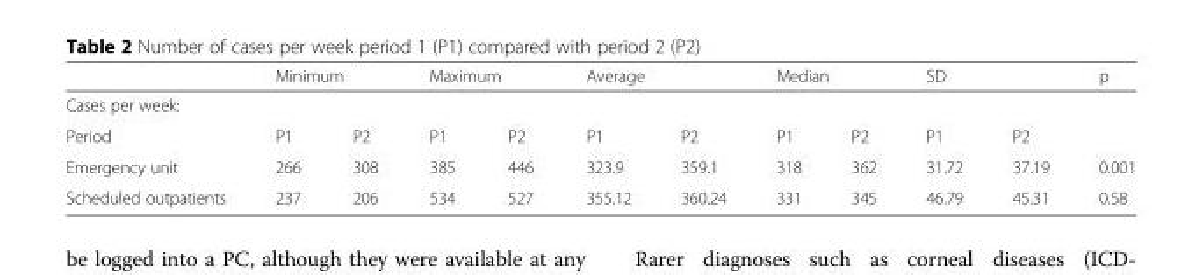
<table><thead><tr><td></td><td colspan="2">Minimum</td><td colspan="2">Maximum</td><td colspan="2">Average</td><td colspan="2">Median</td><td colspan="2">SD</td><td>p</td></tr><tr><td colspan="12">Cases per week:</td></tr><tr><td>Period</td><td>P1</td><td>P2</td><td>P1</td><td>P2</td><td>P1</td><td>P2</td><td>P1</td><td>P2</td><td>P1</td><td>P2</td><td></td></tr></thead><tbody><tr><td>Emergency unit</td><td>266</td><td>308</td><td>385</td><td>446</td><td>323.9</td><td>359.1</td><td>318</td><td>362</td><td>31.72</td><td>37.19</td><td>0.001</td></tr><tr><td>Scheduled outpatients</td><td>237</td><td>206</td><td>534</td><td>527</td><td>355.12</td><td>360.24</td><td>331</td><td>345</td><td>46.79</td><td>45.31</td><td>0.58</td></tr></tbody></table>